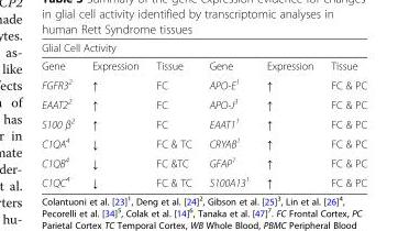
<table><thead><tr><td colspan="6">Glial Cell Activity</td></tr><tr><td>Gene</td><td>Expression</td><td>Tissue</td><td>Gene</td><td>Expression</td><td>Tissue</td></tr></thead><tbody><tr><td>FGFR3<sup>2</sup></td><td>↑</td><td>FC</td><td>APO-E<sup>1</sup></td><td>↑</td><td>FC &amp; PC</td></tr><tr><td>EAAT2<sup>2</sup></td><td>↑</td><td>FC</td><td>APO-J<sup>3</sup></td><td>↑</td><td>FC &amp; PC</td></tr><tr><td>S100 β<sup>2</sup></td><td>↑</td><td>FC</td><td>EAAT1<sup>1</sup></td><td>↑</td><td>FC &amp; PC</td></tr><tr><td>C1QA<sup>4</sup></td><td>↓</td><td>FC &amp; TC</td><td>CRYAB<sup>1</sup></td><td>↑</td><td>FC &amp; PC</td></tr><tr><td>C1QB<sup>4</sup></td><td>↓</td><td>FC &amp;TC</td><td>GFAP<sup>1</sup></td><td>↑</td><td>FC &amp; PC</td></tr><tr><td>C1QC<sup>4</sup></td><td>↓</td><td>FC &amp; TC</td><td>S100A13<sup>1</sup></td><td>↑</td><td>FC &amp; PC</td></tr></tbody></table>